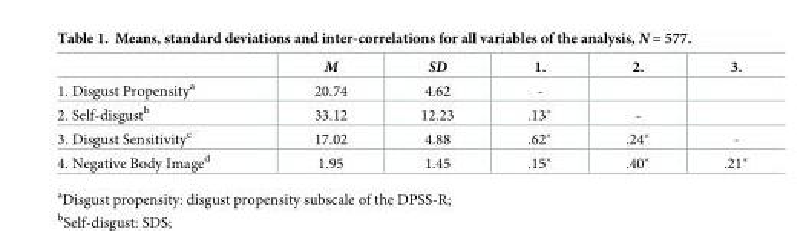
<table><thead><tr><td></td><td>M</td><td>SD</td><td>1.</td><td>2.</td><td>3.</td></tr></thead><tbody><tr><td>1. Disgust Propensity<sup>a</sup></td><td>20.74</td><td>4.62</td><td>-</td><td></td><td></td></tr><tr><td>2. Self-disgust<sup>b</sup></td><td>33.12</td><td>12.23</td><td>.13*</td><td>-</td><td></td></tr><tr><td>3. Disgust Sensitivity<sup>c</sup></td><td>17.02</td><td>4.88</td><td>.62*</td><td>.24*</td><td>-</td></tr><tr><td>4. Negative Body Image<sup>d</sup></td><td>1.95</td><td>1.45</td><td>.15*</td><td>.40*</td><td>.21*</td></tr></tbody></table>